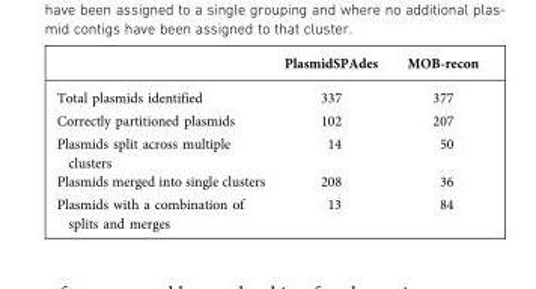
<table><thead><tr><td></td><td>PlasmidSPAdes</td><td>MOB-recon</td></tr></thead><tbody><tr><td>Total plasmids identified</td><td>337</td><td>377</td></tr><tr><td>Correctly partitioned plasmids</td><td>102</td><td>207</td></tr><tr><td>Plasmids split across multiple clusters</td><td>14</td><td>50</td></tr><tr><td>Plasmids merged into single clusters</td><td>208</td><td>36</td></tr><tr><td>Plasmids with a combination of splits and merges</td><td>13</td><td>84</td></tr></tbody></table>